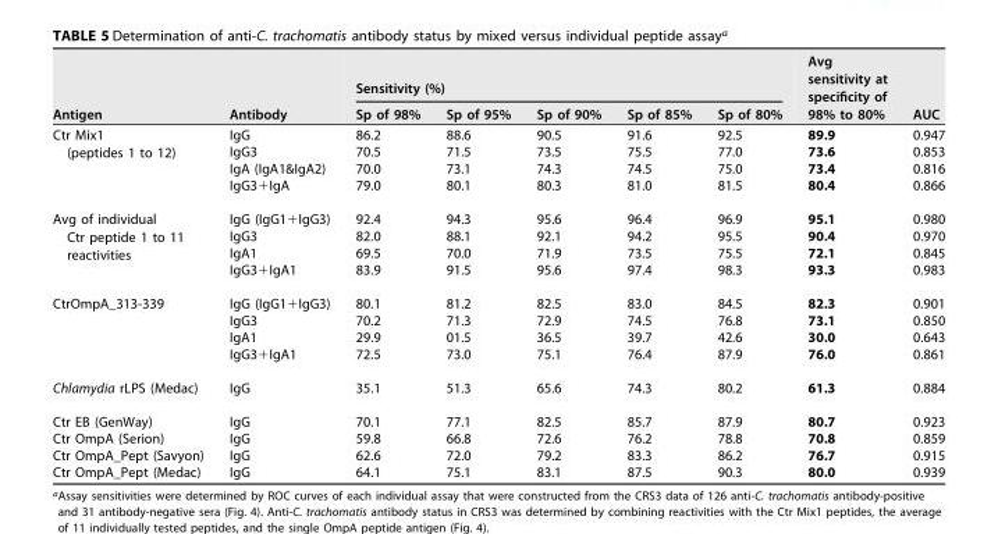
<table><thead><tr><td rowspan="2">Antigen</td><td rowspan="2">Antibody</td><td colspan="5">Sensitivity (%)</td><td rowspan="2">Avg sensitivity at specificity of 98% to 80%</td><td rowspan="2">AUC</td></tr><tr><td>Sp of 98%</td><td>Sp of 95%</td><td>Sp of 90%</td><td>Sp of 85%</td><td>Sp of 80%</td></tr></thead><tbody><tr><td rowspan="4">Ctr Mix1 (peptides 1 to 12)</td><td>IgG</td><td>86.2</td><td>88.6</td><td>90.5</td><td>91.6</td><td>92.5</td><td>89.9</td><td>0.947</td></tr><tr><td>IgG3</td><td>70.5</td><td>71.5</td><td>73.5</td><td>75.5</td><td>77.0</td><td>73.6</td><td>0.853</td></tr><tr><td>IgA (IgA1&amp;IgA2)</td><td>70.0</td><td>73.1</td><td>74.3</td><td>74.5</td><td>75.0</td><td>73.4</td><td>0.816</td></tr><tr><td>IgG3+IgA</td><td>79.0</td><td>80.1</td><td>80.3</td><td>81.0</td><td>81.5</td><td>80.4</td><td>0.866</td></tr><tr><td rowspan="4">Avg of individual Ctr peptide 1 to 11 reactivities</td><td>IgG (IgG1+IgG3)</td><td>92.4</td><td>94.3</td><td>95.6</td><td>96.4</td><td>96.9</td><td>95.1</td><td>0.980</td></tr><tr><td>IgG3</td><td>82.0</td><td>88.1</td><td>92.1</td><td>94.2</td><td>95.5</td><td>90.4</td><td>0.970</td></tr><tr><td>IgA1</td><td>69.5</td><td>70.0</td><td>71.9</td><td>73.5</td><td>75.5</td><td>72.1</td><td>0.845</td></tr><tr><td>IgG3+IgA1</td><td>83.9</td><td>91.5</td><td>95.6</td><td>97.4</td><td>98.3</td><td>93.3</td><td>0.983</td></tr><tr><td rowspan="4">CtrOmpA_313-339</td><td>IgG (IgG1+IgG3)</td><td>80.1</td><td>81.2</td><td>82.5</td><td>83.0</td><td>84.5</td><td>82.3</td><td>0.901</td></tr><tr><td>IgG3</td><td>70.2</td><td>71.3</td><td>72.9</td><td>74.5</td><td>76.8</td><td>73.1</td><td>0.850</td></tr><tr><td>IgA1</td><td>29.9</td><td>01.5</td><td>36.5</td><td>39.7</td><td>42.6</td><td>30.0</td><td>0.643</td></tr><tr><td>IgG3+IgA1</td><td>72.5</td><td>73.0</td><td>75.1</td><td>76.4</td><td>87.9</td><td>76.0</td><td>0.861</td></tr><tr><td>Chlamydia rLPS (Medac)</td><td>IgG</td><td>35.1</td><td>51.3</td><td>65.6</td><td>74.3</td><td>80.2</td><td>61.3</td><td>0.884</td></tr><tr><td>Ctr EB (GenWay)</td><td>IgG</td><td>70.1</td><td>77.1</td><td>82.5</td><td>85.7</td><td>87.9</td><td>80.7</td><td>0.923</td></tr><tr><td>Ctr OmpA (Serion)</td><td>IgG</td><td>59.8</td><td>66.8</td><td>72.6</td><td>76.2</td><td>78.8</td><td>70.8</td><td>0.859</td></tr><tr><td>Ctr OmpA_Pept (Savyon)</td><td>IgG</td><td>62.6</td><td>72.0</td><td>79.2</td><td>83.3</td><td>86.2</td><td>76.7</td><td>0.915</td></tr><tr><td>Ctr OmpA_Pept (Medac)</td><td>IgG</td><td>64.1</td><td>75.1</td><td>83.1</td><td>87.5</td><td>90.3</td><td>80.0</td><td>0.939</td></tr></tbody></table>